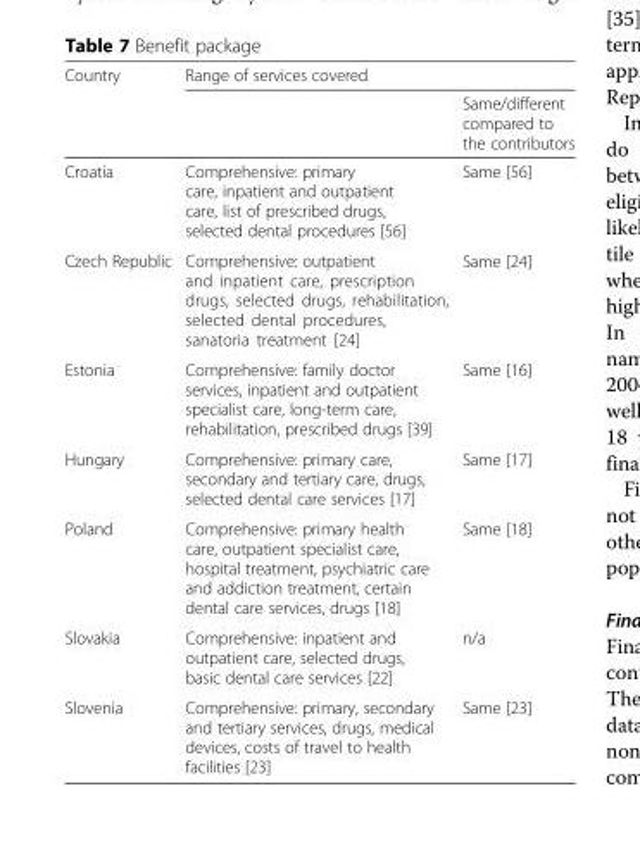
<table><thead><tr><td rowspan="2">Country</td><td colspan="2">Range of services covered</td></tr><tr><td></td><td>Same/different compared to the contributors</td></tr></thead><tbody><tr><td>Croatia</td><td>Comprehensive: primary care, inpatient and outpatient care, list of prescribed drugs, selected dental procedures [56]</td><td>Same [56]</td></tr><tr><td>Czech Republic</td><td>Comprehensive: outpatient and inpatient care, prescription drugs, selected drugs, rehabilitation, selected dental procedures, sanatoria treatment [24]</td><td>Same [24]</td></tr><tr><td>Estonia</td><td>Comprehensive: family doctor services, inpatient and outpatient specialist care, long-term care, rehabilitation, prescribed drugs [39]</td><td>Same [16]</td></tr><tr><td>Hungary</td><td>Comprehensive: primary care, secondary and tertiary care, drugs, selected dental care services [17]</td><td>Same [17]</td></tr><tr><td>Poland</td><td>Comprehensive: primary health care, outpatient specialist care, hospital treatment, psychiatric care and addiction treatment, certain dental care services, drugs [18]</td><td>Same [18]</td></tr><tr><td>Slovakia</td><td>Comprehensive: inpatient and outpatient care, selected drugs, basic dental care services [22]</td><td>n/a</td></tr><tr><td>Slovenia</td><td>Comprehensive: primary, secondary and tertiary services, drugs, medical devices, costs of travel to health facilities [23]</td><td>Same [23]</td></tr></tbody></table>